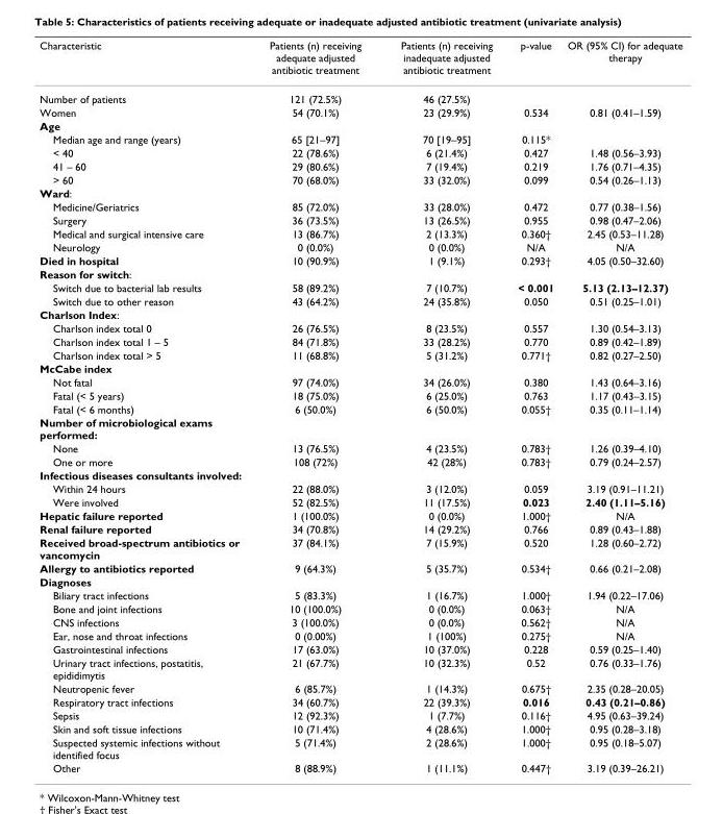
<table><thead><tr><td>Characteristic</td><td>Patients (n) receiving adequate adjusted antibiotic treatment</td><td>Patients (n) receiving inadequate adjusted antibiotic treatment</td><td>p-value</td><td>OR (95% CI) for adequate therapy</td></tr></thead><tbody><tr><td>Number of patients</td><td>121 (72.5%)</td><td>46 (27.5%)</td><td></td><td></td></tr><tr><td>Women</td><td>54 (70.1%)</td><td>23 (29.9%)</td><td>0.534</td><td>0.81 (0.41–1.59)</td></tr><tr><td colspan="5">Age</td></tr><tr><td>Median age and range (years)</td><td>65 [21–97]</td><td>70 [19–95]</td><td>0.115*</td><td></td></tr><tr><td>&lt; 40</td><td>22 (78.6%)</td><td>6 (21.4%)</td><td>0.427</td><td>1.48 (0.56–3.93)</td></tr><tr><td>41 – 60</td><td>29 (80.6%)</td><td>7 (19.4%)</td><td>0.219</td><td>1.76 (0.71–4.35)</td></tr><tr><td>&gt; 60</td><td>70 (68.0%)</td><td>33 (32.0%)</td><td>0.099</td><td>0.54 (0.26–1.13)</td></tr><tr><td colspan="5">Ward:</td></tr><tr><td>Medicine/Geriatrics</td><td>85 (72.0%)</td><td>33 (28.0%)</td><td>0.472</td><td>0.77 (0.38–1.56)</td></tr><tr><td>Surgery</td><td>36 (73.5%)</td><td>13 (26.5%)</td><td>0.955</td><td>0.98 (0.47–2.06)</td></tr><tr><td>Medical and surgical intensive care</td><td>13 (86.7%)</td><td>2 (13.3%)</td><td>0.360†</td><td>2.45 (0.53–11.28)</td></tr><tr><td>Neurology</td><td>0 (0.0%)</td><td>0 (0.0%)</td><td>N/A</td><td>N/A</td></tr><tr><td>Died in hospital</td><td>10 (90.9%)</td><td>1 (9.1%)</td><td>0.293†</td><td>4.05 (0.50–32.60)</td></tr><tr><td colspan="5">Reason for switch:</td></tr><tr><td>Switch due to bacterial lab results</td><td>58 (89.2%)</td><td>7 (10.7%)</td><td>&lt; 0.001</td><td>5.13 (2.13–12.37)</td></tr><tr><td>Switch due to other reason</td><td>43 (64.2%)</td><td>24 (35.8%)</td><td>0.050</td><td>0.51 (0.25–1.01)</td></tr><tr><td colspan="5">Charlson Index:</td></tr><tr><td>Charlson index total 0</td><td>26 (76.5%)</td><td>8 (23.5%)</td><td>0.557</td><td>1.30 (0.54–3.13)</td></tr><tr><td>Charlson index total 1 – 5</td><td>84 (71.8%)</td><td>33 (28.2%)</td><td>0.770</td><td>0.89 (0.42–1.89)</td></tr><tr><td>Charlson index total &gt; 5</td><td>11 (68.8%)</td><td>5 (31.2%)</td><td>0.771†</td><td>0.82 (0.27–2.50)</td></tr><tr><td colspan="5">McCabe index</td></tr><tr><td>Not fatal</td><td>97 (74.0%)</td><td>34 (26.0%)</td><td>0.380</td><td>1.43 (0.64–3.16)</td></tr><tr><td>Fatal (&lt; 5 years)</td><td>18 (75.0%)</td><td>6 (25.0%)</td><td>0.763</td><td>1.17 (0.43–3.15)</td></tr><tr><td>Fatal (&lt; 6 months)</td><td>6 (50.0%)</td><td>6 (50.0%)</td><td>0.055†</td><td>0.35 (0.11–1.14)</td></tr><tr><td colspan="5">Number of microbiological exams performed:</td></tr><tr><td>None</td><td>13 (76.5%)</td><td>4 (23.5%)</td><td>0.783†</td><td>1.26 (0.39–4.10)</td></tr><tr><td>One or more</td><td>108 (72%)</td><td>42 (28%)</td><td>0.783†</td><td>0.79 (0.24–2.57)</td></tr><tr><td colspan="5">Infectious diseases consultants involved:</td></tr><tr><td>Within 24 hours</td><td>22 (88.0%)</td><td>3 (12.0%)</td><td>0.059</td><td>3.19 (0.91–11.21)</td></tr><tr><td>Were involved</td><td>52 (82.5%)</td><td>11 (17.5%)</td><td>0.023</td><td>2.40 (1.11–5.16)</td></tr><tr><td>Hepatic failure reported</td><td>1 (100.0%)</td><td>0 (0.0%)</td><td>1.000†</td><td>N/A</td></tr><tr><td>Renal failure reported</td><td>34 (70.8%)</td><td>14 (29.2%)</td><td>0.766</td><td>0.89 (0.43–1.88)</td></tr><tr><td>Received broad-spectrum antibiotics or vancomycin</td><td>37 (84.1%)</td><td>7 (15.9%)</td><td>0.520</td><td>1.28 (0.60–2.72)</td></tr><tr><td>Allergy to antibiotics reported</td><td>9 (64.3%)</td><td>5 (35.7%)</td><td>0.534†</td><td>0.66 (0.21–2.08)</td></tr><tr><td colspan="5">Diagnoses</td></tr><tr><td>Biliary tract infections</td><td>5 (83.3%)</td><td>1 (16.7%)</td><td>1.000†</td><td>1.94 (0.22–17.06)</td></tr><tr><td>Bone and joint infections</td><td>10 (100.0%)</td><td>0 (0.0%)</td><td>0.063†</td><td>N/A</td></tr><tr><td>CNS infections</td><td>3 (100.0%)</td><td>0 (0.0%)</td><td>0.562†</td><td>N/A</td></tr><tr><td>Ear, nose and throat infections</td><td>0 (0.00%)</td><td>1 (100%)</td><td>0.275†</td><td>N/A</td></tr><tr><td>Gastrointestinal infections</td><td>17 (63.0%)</td><td>10 (37.0%)</td><td>0.228</td><td>0.59 (0.25–1.40)</td></tr><tr><td>Urinary tract infections, postatitis, epididimytis</td><td>21 (67.7%)</td><td>10 (32.3%)</td><td>0.52</td><td>0.76 (0.33–1.76)</td></tr><tr><td>Neutropenic fever</td><td>6 (85.7%)</td><td>1 (14.3%)</td><td>0.675†</td><td>2.35 (0.28–20.05)</td></tr><tr><td>Respiratory tract infections</td><td>34 (60.7%)</td><td>22 (39.3%)</td><td>0.016</td><td>0.43 (0.21–0.86)</td></tr><tr><td>Sepsis</td><td>12 (92.3%)</td><td>1 (7.7%)</td><td>0.116†</td><td>4.95 (0.63–39.24)</td></tr><tr><td>Skin and soft tissue infections</td><td>10 (71.4%)</td><td>4 (28.6%)</td><td>1.000†</td><td>0.95 (0.28–3.18)</td></tr><tr><td>Suspected systemic infections without identified focus</td><td>5 (71.4%)</td><td>2 (28.6%)</td><td>1.000†</td><td>0.95 (0.18–5.07)</td></tr><tr><td>Other</td><td>8 (88.9%)</td><td>1 (11.1%)</td><td>0.447†</td><td>3.19 (0.39–26.21)</td></tr></tbody></table>